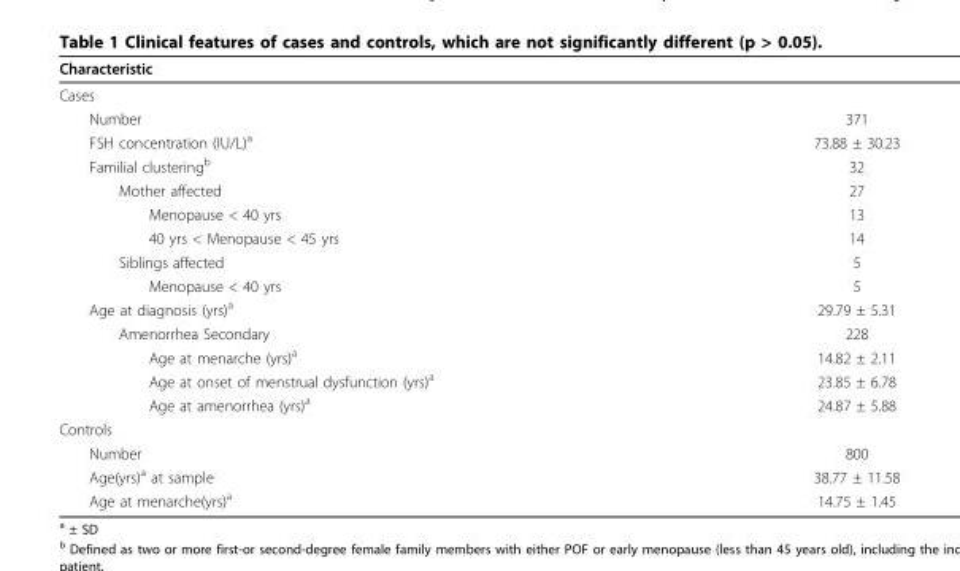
<table><thead><tr><td>Characteristic</td><td></td></tr></thead><tbody><tr><td colspan="2">Cases</td></tr><tr><td>Number</td><td>371</td></tr><tr><td>FSH concentration (IU/L)<sup>a</sup></td><td>73.88 ± 30.23</td></tr><tr><td>Familial clustering<sup>b</sup></td><td>32</td></tr><tr><td>Mother affected</td><td>27</td></tr><tr><td>Menopause &lt; 40 yrs</td><td>13</td></tr><tr><td>40 yrs &lt; Menopause &lt; 45 yrs</td><td>14</td></tr><tr><td>Siblings affected</td><td>5</td></tr><tr><td>Menopause &lt; 40 yrs</td><td>5</td></tr><tr><td>Age at diagnosis (yrs)<sup>a</sup></td><td>29.79 ± 5.31</td></tr><tr><td>Amenorrhea Secondary</td><td>228</td></tr><tr><td>Age at menarche (yrs)<sup>a</sup></td><td>14.82 ± 2.11</td></tr><tr><td>Age at onset of menstrual dysfunction (yrs)<sup>a</sup></td><td>23.85 ± 6.78</td></tr><tr><td>Age at amenorrhea (yrs)<sup>a</sup></td><td>24.87 ± 5.88</td></tr><tr><td colspan="2">Controls</td></tr><tr><td>Number</td><td>800</td></tr><tr><td>Age(yrs)<sup>a</sup> at sample</td><td>38.77 ± 11.58</td></tr><tr><td>Age at menarche(yrs)<sup>a</sup></td><td>14.75 ± 1.45</td></tr></tbody></table>